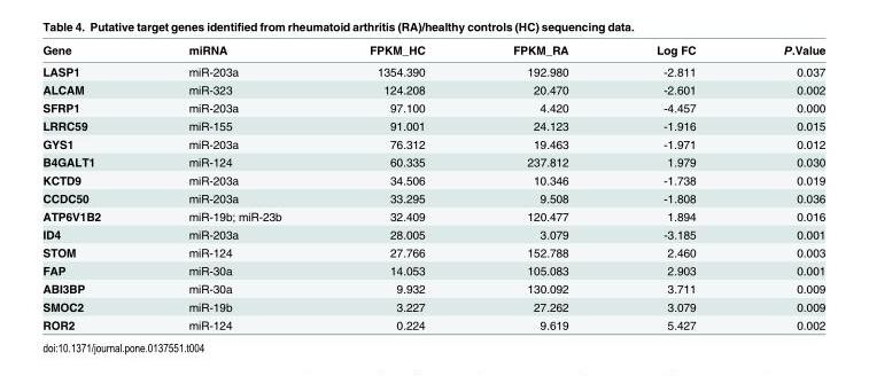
<table><thead><tr><td>Gene</td><td>miRNA</td><td>FPKM_HC</td><td>FPKM_RA</td><td>Log FC</td><td>P.Value</td></tr></thead><tbody><tr><td>LASP1</td><td>miR-203a</td><td>1354.390</td><td>192.980</td><td>-2.811</td><td>0.037</td></tr><tr><td>ALCAM</td><td>miR-323</td><td>124.208</td><td>20.470</td><td>-2.601</td><td>0.002</td></tr><tr><td>SFRP1</td><td>miR-203a</td><td>97.100</td><td>4.420</td><td>-4.457</td><td>0.000</td></tr><tr><td>LRRC59</td><td>miR-155</td><td>91.001</td><td>24.123</td><td>-1.916</td><td>0.015</td></tr><tr><td>GYS1</td><td>miR-203a</td><td>76.312</td><td>19.463</td><td>-1.971</td><td>0.012</td></tr><tr><td>B4GALT1</td><td>miR-124</td><td>60.335</td><td>237.812</td><td>1.979</td><td>0.030</td></tr><tr><td>KCTD9</td><td>miR-203a</td><td>34.506</td><td>10.346</td><td>-1.738</td><td>0.019</td></tr><tr><td>CCDC50</td><td>miR-203a</td><td>33.295</td><td>9.508</td><td>-1.808</td><td>0.036</td></tr><tr><td>ATP6V1B2</td><td>miR-19b; miR-23b</td><td>32.409</td><td>120.477</td><td>1.894</td><td>0.016</td></tr><tr><td>ID4</td><td>miR-203a</td><td>28.005</td><td>3.079</td><td>-3.185</td><td>0.001</td></tr><tr><td>STOM</td><td>miR-124</td><td>27.766</td><td>152.788</td><td>2.460</td><td>0.003</td></tr><tr><td>FAP</td><td>miR-30a</td><td>14.053</td><td>105.083</td><td>2.903</td><td>0.001</td></tr><tr><td>ABI3BP</td><td>miR-30a</td><td>9.932</td><td>130.092</td><td>3.711</td><td>0.009</td></tr><tr><td>SMOC2</td><td>miR-19b</td><td>3.227</td><td>27.262</td><td>3.079</td><td>0.009</td></tr><tr><td>ROR2</td><td>miR-124</td><td>0.224</td><td>9.619</td><td>5.427</td><td>0.002</td></tr></tbody></table>